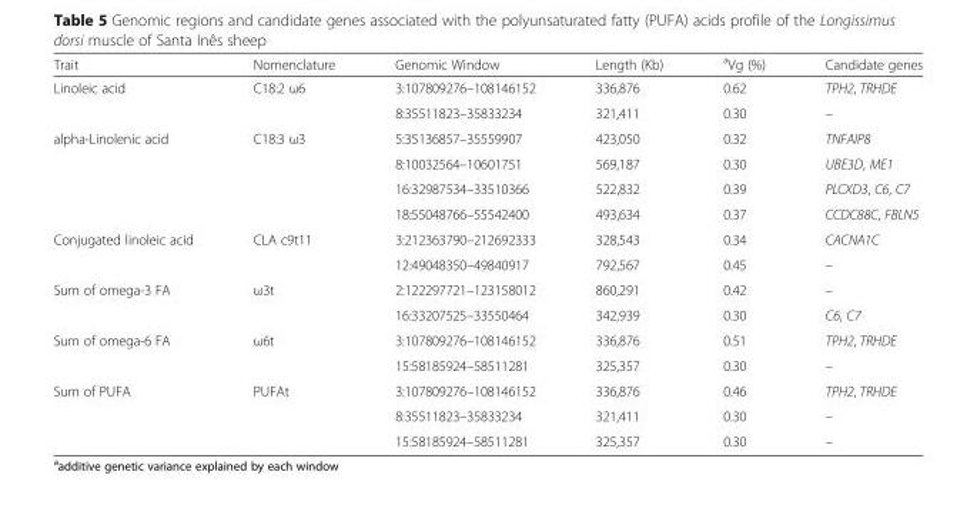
<table><thead><tr><td>Trait</td><td>Nomenclature</td><td>Genomic Window</td><td>Length (Kb)</td><td><sup>a</sup>Vg (%)</td><td>Candidate genes</td></tr></thead><tbody><tr><td rowspan="2">Linoleic acid</td><td>C18:2 ω6</td><td>3:107809276–108146152</td><td>336,876</td><td>0.62</td><td>TPH2, TRHDE</td></tr><tr><td></td><td>8:35511823–35833234</td><td>321,411</td><td>0.30</td><td>–</td></tr><tr><td rowspan="4">alpha-Linolenic acid</td><td>C18:3 ω3</td><td>5:35136857–35559907</td><td>423,050</td><td>0.32</td><td>TNFAIP8</td></tr><tr><td></td><td>8:10032564–10601751</td><td>569,187</td><td>0.30</td><td>UBE3D, ME1</td></tr><tr><td></td><td>16:32987534–33510366</td><td>522,832</td><td>0.39</td><td>PLCXD3, C6, C7</td></tr><tr><td></td><td>18:55048766–55542400</td><td>493,634</td><td>0.37</td><td>CCDC88C, FBLN5</td></tr><tr><td rowspan="2">Conjugated linoleic acid</td><td>CLA c9t11</td><td>3:212363790–212692333</td><td>328,543</td><td>0.34</td><td>CACNA1C</td></tr><tr><td></td><td>12:49048350–49840917</td><td>792,567</td><td>0.45</td><td>–</td></tr><tr><td rowspan="2">Sum of omega-3 FA</td><td>ω3t</td><td>2:122297721–123158012</td><td>860,291</td><td>0.42</td><td>–</td></tr><tr><td></td><td>16:33207525–33550464</td><td>342,939</td><td>0.30</td><td>C6, C7</td></tr><tr><td rowspan="2">Sum of omega-6 FA</td><td>ω6t</td><td>3:107809276–108146152</td><td>336,876</td><td>0.51</td><td>TPH2, TRHDE</td></tr><tr><td></td><td>15:58185924–58511281</td><td>325,357</td><td>0.30</td><td>–</td></tr><tr><td rowspan="3">Sum of PUFA</td><td>PUFAt</td><td>3:107809276–108146152</td><td>336,876</td><td>0.46</td><td>TPH2, TRHDE</td></tr><tr><td></td><td>8:35511823–35833234</td><td>321,411</td><td>0.30</td><td>–</td></tr><tr><td></td><td>15:58185924–58511281</td><td>325,357</td><td>0.30</td><td>–</td></tr></tbody></table>